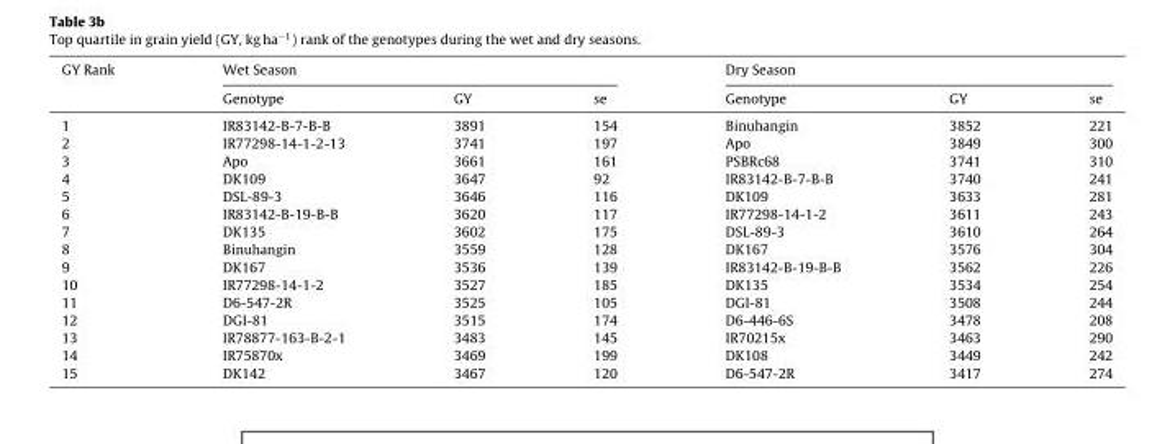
<table><thead><tr><td rowspan="2">GY Rank</td><td colspan="3">Wet Season</td><td colspan="3">Dry Season</td></tr><tr><td>Genotype</td><td>GY</td><td>se</td><td>Genotype</td><td>GY</td><td>se</td></tr></thead><tbody><tr><td>1</td><td>IR83142-B-7-B-B</td><td>3891</td><td>154</td><td>Binuhangin</td><td>3852</td><td>221</td></tr><tr><td>2</td><td>IR77298-14-1-2-13</td><td>3741</td><td>197</td><td>Apo</td><td>3849</td><td>300</td></tr><tr><td>3</td><td>Apo</td><td>3661</td><td>161</td><td>PSBRc68</td><td>3741</td><td>310</td></tr><tr><td>4</td><td>DK109</td><td>3647</td><td>92</td><td>IR83142-B-7-B-B</td><td>3740</td><td>241</td></tr><tr><td>5</td><td>DSL-89-3</td><td>3646</td><td>116</td><td>DK109</td><td>3633</td><td>281</td></tr><tr><td>6</td><td>IR83142-B-19-B-B</td><td>3620</td><td>117</td><td>IR77298-14-1-2</td><td>3611</td><td>243</td></tr><tr><td>7</td><td>DK135</td><td>3602</td><td>175</td><td>DSL-89-3</td><td>3610</td><td>264</td></tr><tr><td>8</td><td>Binuhangin</td><td>3559</td><td>128</td><td>DK167</td><td>3576</td><td>304</td></tr><tr><td>9</td><td>DK167</td><td>3536</td><td>139</td><td>IR83142-B-19-B-B</td><td>3562</td><td>226</td></tr><tr><td>10</td><td>IR77298-14-1-2</td><td>3527</td><td>185</td><td>DK135</td><td>3534</td><td>254</td></tr><tr><td>11</td><td>D6-547-2R</td><td>3525</td><td>105</td><td>DGI-81</td><td>3508</td><td>244</td></tr><tr><td>12</td><td>DGI-81</td><td>3515</td><td>174</td><td>D6-446-6S</td><td>3478</td><td>208</td></tr><tr><td>13</td><td>IR78877-163-B-2-1</td><td>3483</td><td>145</td><td>IR70215x</td><td>3463</td><td>290</td></tr><tr><td>14</td><td>IR75870x</td><td>3469</td><td>199</td><td>DK108</td><td>3449</td><td>242</td></tr><tr><td>15</td><td>DK142</td><td>3467</td><td>120</td><td>D6-547-2R</td><td>3417</td><td>274</td></tr></tbody></table>